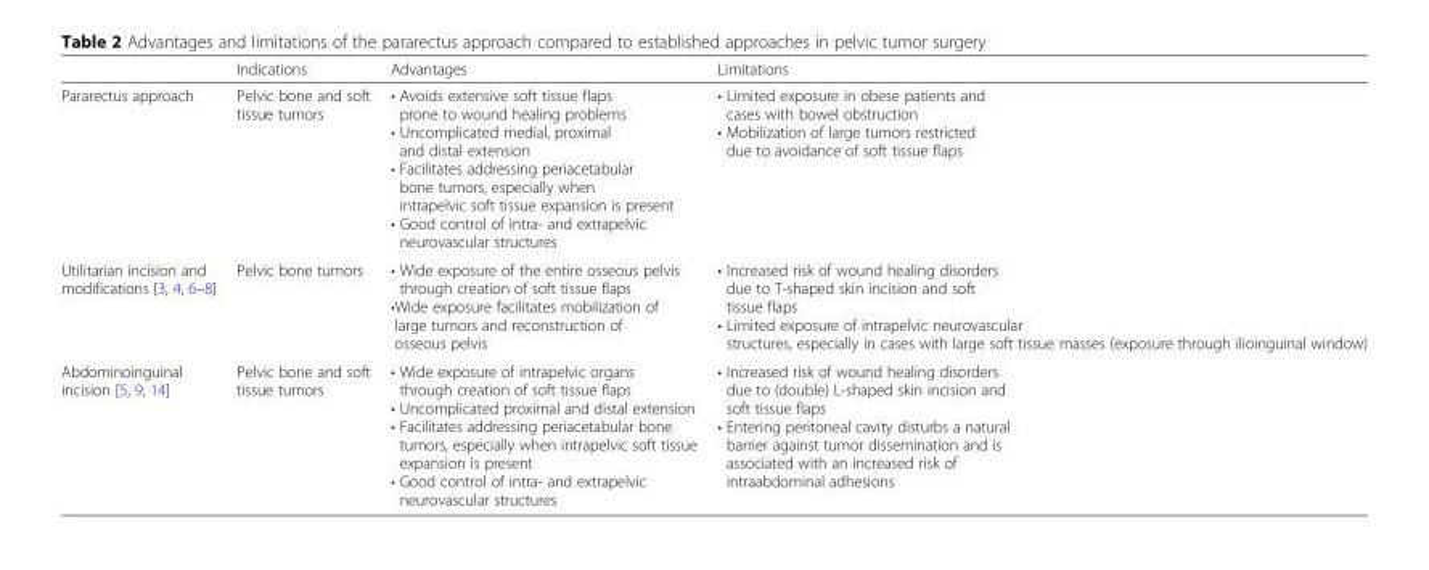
<table><thead><tr><td></td><td>Indications</td><td>Advantages</td><td>Limitations</td></tr></thead><tbody><tr><td>Pararectus approach</td><td>Pelvic bone and soft tissue tumors</td><td>• Avoids extensive soft tissue flaps prone to wound healing problems • Uncomplicated medial, proximal and distal extension • Facilitates addressing periacetabular bone tumors, especially when intrapelvic soft tissue expansion is present • Good control of intra- and extrapelvic neurovascular structures</td><td>• Limited exposure in obese patients and cases with bowel obstruction • Mobilization of large tumors restricted due to avoidance of soft tissue flaps</td></tr><tr><td>Utilitarian incision and modifications [3, 4, 6–8]</td><td>Pelvic bone tumors</td><td>• Wide exposure of the entire osseous pelvis through creation of soft tissue flaps •Wide exposure facilitates mobilization of large tumors and reconstruction of osseous pelvis</td><td>• Increased risk of wound healing disorders due to T-shaped skin incision and soft tissue flaps • Limited exposure of intrapelvic neurovascular structures, especially in cases with large soft tissue masses (exposure through ilioinguinal window)</td></tr><tr><td>Abdominoinguinal incision [5, 9, 14]</td><td>Pelvic bone and soft tissue tumors</td><td>• Wide exposure of intrapelvic organs through creation of soft tissue flaps • Uncomplicated proximal and distal extension • Facilitates addressing periacetabular bone tumors, especially when intrapelvic soft tissue expansion is present • Good control of intra- and extrapelvic neurovascular structures</td><td>• Increased risk of wound healing disorders due to (double) L-shaped skin incision and soft tissue flaps • Entering peritoneal cavity disturbs a natural barrier against tumor dissemination and is associated with an increased risk of intraabdominal adhesions</td></tr></tbody></table>